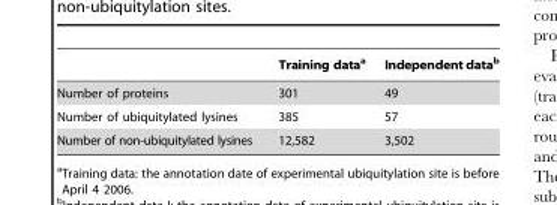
<table><thead><tr><td></td><td>Training data<sup>a</sup></td><td>Independent data<sup>b</sup></td></tr></thead><tbody><tr><td>Number of proteins</td><td>301</td><td>49</td></tr><tr><td>Number of ubiquitylated lysines</td><td>385</td><td>57</td></tr><tr><td>Number of non-ubiquitylated lysines</td><td>12,582</td><td>3,502</td></tr></tbody></table>